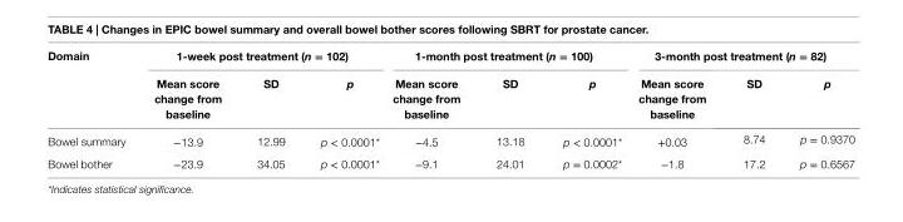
<table><thead><tr><td rowspan="2">Domain</td><td colspan="3">1-week post treatment (n = 102)</td><td colspan="3">1-month post treatment (n = 100)</td><td colspan="3">3-month post treatment (n = 82)</td></tr><tr><td>Mean score change from baseline</td><td>sD</td><td>p</td><td>Mean score change from baseline</td><td>sD</td><td>p</td><td>Mean score change from baseline</td><td>sD</td><td>p</td></tr></thead><tbody><tr><td>Bowel summary</td><td>−13.9</td><td>12.99</td><td>p &lt; 0.0001*</td><td>−4.5</td><td>13.18</td><td>p &lt; 0.0001*</td><td>+0.03</td><td>8.74</td><td>p = 0.9370</td></tr><tr><td>Bowel bother</td><td>−23.9</td><td>34.05</td><td>p &lt; 0.0001*</td><td>−9.1</td><td>24.01</td><td>p = 0.0002*</td><td>−1.8</td><td>17.2</td><td>p = 0.6567</td></tr></tbody></table>